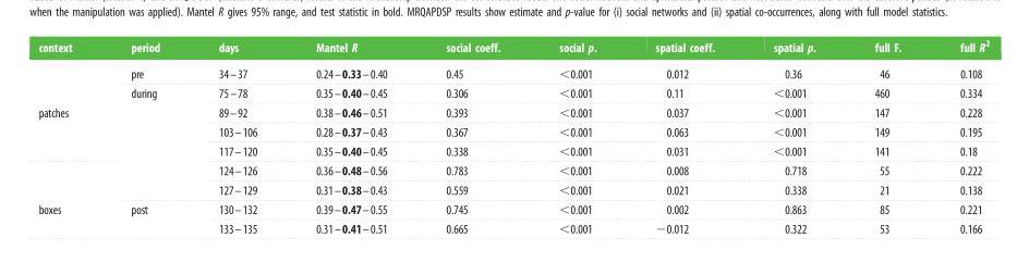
<table><thead><tr><td>context</td><td>period</td><td>days</td><td>Mantel R</td><td>social coeff.</td><td>social p.</td><td>spatial coeff.</td><td>spatial p.</td><td>full F.</td><td>full R<sup>2</sup></td></tr></thead><tbody><tr><td rowspan="6">patches</td><td>pre</td><td>34–37</td><td>0.24–0.33–0.40</td><td>0.45</td><td>&lt;0.001</td><td>0.012</td><td>0.36</td><td>46</td><td>0.108</td></tr><tr><td rowspan="6">during</td><td>75–78</td><td>0.35–0.40–0.45</td><td>0.306</td><td>&lt;0.001</td><td>0.11</td><td>&lt;0.001</td><td>460</td><td>0.334</td></tr><tr><td>89–92</td><td>0.38–0.46–0.51</td><td>0.393</td><td>&lt;0.001</td><td>0.037</td><td>&lt;0.001</td><td>147</td><td>0.228</td></tr><tr><td>103–106</td><td>0.28–0.37–0.43</td><td>0.367</td><td>&lt;0.001</td><td>0.063</td><td>&lt;0.001</td><td>149</td><td>0.195</td></tr><tr><td>117–120</td><td>0.35–0.40–0.45</td><td>0.338</td><td>&lt;0.001</td><td>0.031</td><td>&lt;0.001</td><td>141</td><td>0.18</td></tr><tr><td>124–126</td><td>0.36–0.48–0.56</td><td>0.783</td><td>&lt;0.001</td><td>0.008</td><td>0.718</td><td>55</td><td>0.222</td></tr><tr><td rowspan="3">boxes</td><td>127–129</td><td>0.31–0.38–0.43</td><td>0.559</td><td>&lt;0.001</td><td>0.021</td><td>0.338</td><td>21</td><td>0.138</td></tr><tr><td rowspan="2">post</td><td>130–132</td><td>0.39–0.47–0.55</td><td>0.745</td><td>&lt;0.001</td><td>0.002</td><td>0.863</td><td>85</td><td>0.221</td></tr><tr><td>133–135</td><td>0.31–0.41–0.51</td><td>0.665</td><td>&lt;0.001</td><td>−0.012</td><td>0.322</td><td>53</td><td>0.166</td></tr></tbody></table>